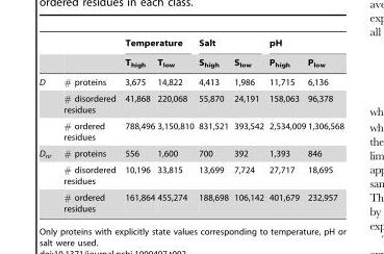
<table><thead><tr><td rowspan="2"></td><td rowspan="2"></td><td colspan="2">Temperature</td><td colspan="2">Salt</td><td colspan="2">pH</td></tr><tr><td>T<sub>high</sub></td><td>T<sub>low</sub></td><td>S<sub>high</sub></td><td>S<sub>low</sub></td><td>P<sub>high</sub></td><td>P<sub>low</sub></td></tr></thead><tbody><tr><td rowspan="3">D</td><td># proteins</td><td>3,675</td><td>14,822</td><td>4,413</td><td>1,986</td><td>11,715</td><td>6,136</td></tr><tr><td># disordered residues</td><td>41,868</td><td>220,068</td><td>55,870</td><td>24,191</td><td>158,063</td><td>96,378</td></tr><tr><td># ordered residues</td><td>788,496</td><td>3,150,810</td><td>831,521</td><td>393,542</td><td>2,534,009</td><td>1,306,568</td></tr><tr><td rowspan="3">D<sub>nr</sub></td><td># proteins</td><td>556</td><td>1,600</td><td>700</td><td>392</td><td>1,393</td><td>846</td></tr><tr><td># disordered residues</td><td>10,196</td><td>33,815</td><td>13,699</td><td>7,724</td><td>27,717</td><td>18,695</td></tr><tr><td># ordered residues</td><td>161,864</td><td>455,274</td><td>188,698</td><td>106,142</td><td>401,679</td><td>232,957</td></tr></tbody></table>